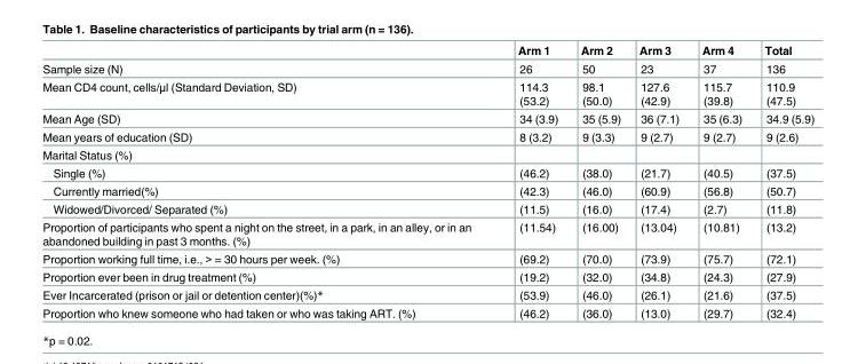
<table><thead><tr><td></td><td>Arm 1</td><td>Arm 2</td><td>Arm 3</td><td>Arm 4</td><td>Total</td></tr></thead><tbody><tr><td>Sample size (N)</td><td>26</td><td>50</td><td>23</td><td>37</td><td>136</td></tr><tr><td>Mean CD4 count, cells/μl (Standard Deviation, SD)</td><td>114.3 (53.2)</td><td>98.1 (50.0)</td><td>127.6 (42.9)</td><td>115.7 (39.8)</td><td>110.9 (47.5)</td></tr><tr><td>Mean Age (SD)</td><td>34 (3.9)</td><td>35 (5.9)</td><td>36 (7.1)</td><td>35 (6.3)</td><td>34.9 (5.9)</td></tr><tr><td>Mean years of education (SD)</td><td>8 (3.2)</td><td>9 (3.3)</td><td>9 (2.7)</td><td>9 (2.7)</td><td>9 (2.6)</td></tr><tr><td colspan="6">Marital Status (%)</td></tr><tr><td>Single (%)</td><td>(46.2)</td><td>(38.0)</td><td>(21.7)</td><td>(40.5)</td><td>(37.5)</td></tr><tr><td>Currently married(%)</td><td>(42.3)</td><td>(46.0)</td><td>(60.9)</td><td>(56.8)</td><td>(50.7)</td></tr><tr><td>Widowed/Divorced/ Separated (%)</td><td>(11.5)</td><td>(16.0)</td><td>(17.4)</td><td>(2.7)</td><td>(11.8)</td></tr><tr><td>Proportion of participants who spent a night on the street, in a park, in an alley, or in an abandoned building in past 3 months. (%)</td><td>(11.54)</td><td>(16.00)</td><td>(13.04)</td><td>(10.81)</td><td>(13.2)</td></tr><tr><td>Proportion working full time, i.e., &gt; = 30 hours per week. (%)</td><td>(69.2)</td><td>(70.0)</td><td>(73.9)</td><td>(75.7)</td><td>(72.1)</td></tr><tr><td>Proportion ever been in drug treatment (%)</td><td>(19.2)</td><td>(32.0)</td><td>(34.8)</td><td>(24.3)</td><td>(27.9)</td></tr><tr><td>Ever Incarcerated (prison or jail or detention center)(%)*</td><td>(53.9)</td><td>(46.0)</td><td>(26.1)</td><td>(21.6)</td><td>(37.5)</td></tr><tr><td>Proportion who knew someone who had taken or who was taking ART. (%)</td><td>(46.2)</td><td>(36.0)</td><td>(13.0)</td><td>(29.7)</td><td>(32.4)</td></tr></tbody></table>